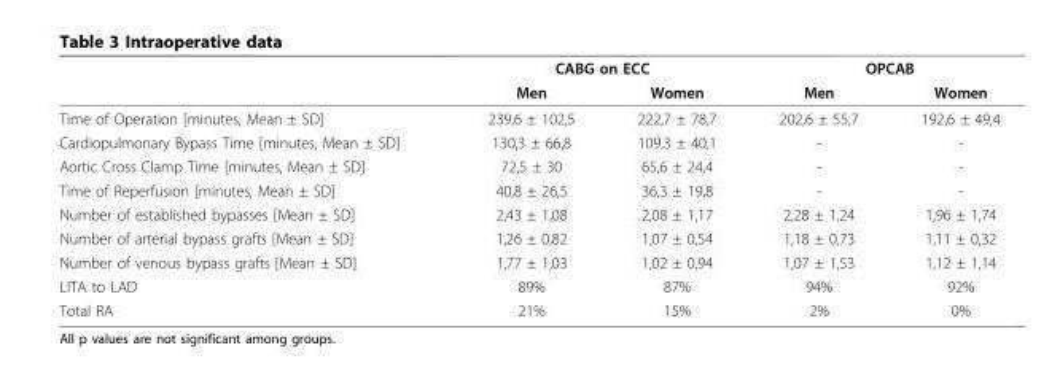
<table><thead><tr><td rowspan="2"></td><td colspan="2">CABG on ECC</td><td colspan="2">OPCAB</td></tr><tr><td>Men</td><td>Women</td><td>Men</td><td>Women</td></tr></thead><tbody><tr><td>Time of Operation [minutes, Mean ± SD]</td><td>239,6 ± 102,5</td><td>222,7 ± 78,7</td><td>202,6 ± 55,7</td><td>192,6 ± 49,4</td></tr><tr><td>Cardiopulmonary Bypass Time [minutes, Mean ± SD]</td><td>130,3 ± 66,8</td><td>109,3 ± 40,1</td><td>-</td><td>-</td></tr><tr><td>Aortic Cross Clamp Time [minutes, Mean ± SD]</td><td>72,5 ± 30</td><td>65,6 ± 24,4</td><td>-</td><td>-</td></tr><tr><td>Time of Reperfusion [minutes, Mean ± SD]</td><td>40,8 ± 26,5</td><td>36,3 ± 19,8</td><td>-</td><td>-</td></tr><tr><td>Number of established bypasses [Mean ± SD]</td><td>2,43 ± 1,08</td><td>2,08 ± 1,17</td><td>2,28 ± 1,24</td><td>1,96 ± 1,74</td></tr><tr><td>Number of arterial bypass grafts [Mean ± SD]</td><td>1,26 ± 0,82</td><td>1,07 ± 0,54</td><td>1,18 ± 0,73</td><td>1,11 ± 0,32</td></tr><tr><td>Number of venous bypass grafts [Mean ± SD]</td><td>1,77 ± 1,03</td><td>1,02 ± 0,94</td><td>1,07 ± 1,53</td><td>1,12 ± 1,14</td></tr><tr><td>LITA to LAD</td><td>89%</td><td>87%</td><td>94%</td><td>92%</td></tr><tr><td>Total RA</td><td>21%</td><td>15%</td><td>2%</td><td>0%</td></tr></tbody></table>